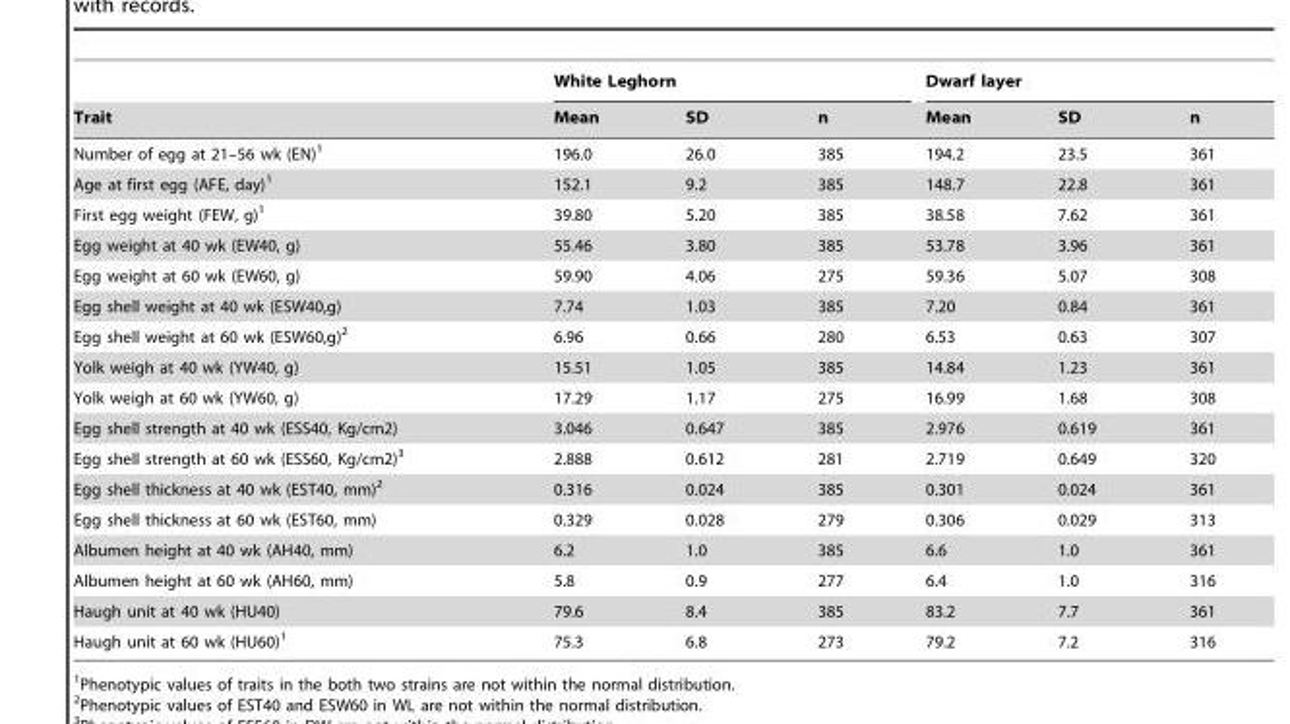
<table><thead><tr><td rowspan="2">Trait</td><td colspan="3">White Leghorn</td><td colspan="3">Dwarf layer</td></tr><tr><td>Mean</td><td>SD</td><td>n</td><td>Mean</td><td>SD</td><td>n</td></tr></thead><tbody><tr><td>Number of egg at 21–56 wk (EN)<sup>1</sup></td><td>196.0</td><td>26.0</td><td>385</td><td>194.2</td><td>23.5</td><td>361</td></tr><tr><td>Age at first egg (AFE, day)<sup>1</sup></td><td>152.1</td><td>9.2</td><td>385</td><td>148.7</td><td>22.8</td><td>361</td></tr><tr><td>First egg weight (FEW, g)<sup>1</sup></td><td>39.80</td><td>5.20</td><td>385</td><td>38.58</td><td>7.62</td><td>361</td></tr><tr><td>Egg weight at 40 wk (EW40, g)</td><td>55.46</td><td>3.80</td><td>385</td><td>53.78</td><td>3.96</td><td>361</td></tr><tr><td>Egg weight at 60 wk (EW60, g)</td><td>59.90</td><td>4.06</td><td>275</td><td>59.36</td><td>5.07</td><td>308</td></tr><tr><td>Egg shell weight at 40 wk (ESW40,g)</td><td>7.74</td><td>1.03</td><td>385</td><td>7.20</td><td>0.84</td><td>361</td></tr><tr><td>Egg shell weight at 60 wk (ESW60,g)<sup>2</sup></td><td>6.96</td><td>0.66</td><td>280</td><td>6.53</td><td>0.63</td><td>307</td></tr><tr><td>Yolk weigh at 40 wk (YW40, g)</td><td>15.51</td><td>1.05</td><td>385</td><td>14.84</td><td>1.23</td><td>361</td></tr><tr><td>Yolk weigh at 60 wk (YW60, g)</td><td>17.29</td><td>1.17</td><td>275</td><td>16.99</td><td>1.68</td><td>308</td></tr><tr><td>Egg shell strength at 40 wk (ESS40, Kg/cm2)</td><td>3.046</td><td>0.647</td><td>385</td><td>2.976</td><td>0.619</td><td>361</td></tr><tr><td>Egg shell strength at 60 wk (ESS60, Kg/cm2)<sup>3</sup></td><td>2.888</td><td>0.612</td><td>281</td><td>2.719</td><td>0.649</td><td>320</td></tr><tr><td>Egg shell thickness at 40 wk (EST40, mm)<sup>2</sup></td><td>0.316</td><td>0.024</td><td>385</td><td>0.301</td><td>0.024</td><td>361</td></tr><tr><td>Egg shell thickness at 60 wk (EST60, mm)</td><td>0.329</td><td>0.028</td><td>279</td><td>0.306</td><td>0.029</td><td>313</td></tr><tr><td>Albumen height at 40 wk (AH40, mm)</td><td>6.2</td><td>1.0</td><td>385</td><td>6.6</td><td>1.0</td><td>361</td></tr><tr><td>Albumen height at 60 wk (AH60, mm)</td><td>5.8</td><td>0.9</td><td>277</td><td>6.4</td><td>1.0</td><td>316</td></tr><tr><td>Haugh unit at 40 wk (HU40)</td><td>79.6</td><td>8.4</td><td>385</td><td>83.2</td><td>7.7</td><td>361</td></tr><tr><td>Haugh unit at 60 wk (HU60)<sup>1</sup></td><td>75.3</td><td>6.8</td><td>273</td><td>79.2</td><td>7.2</td><td>316</td></tr></tbody></table>